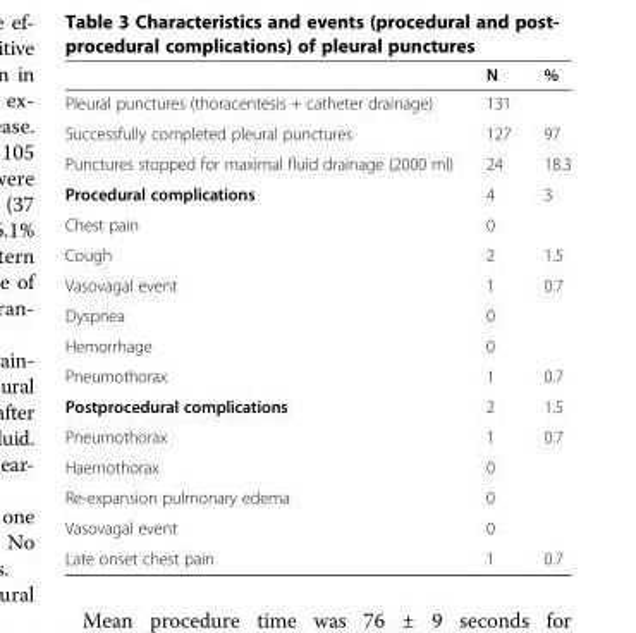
<table><thead><tr><td></td><td>N</td><td>%</td></tr></thead><tbody><tr><td>Pleural punctures (thoracentesis + catheter drainage)</td><td>131</td><td></td></tr><tr><td>Successfully completed pleural punctures</td><td>127</td><td>97</td></tr><tr><td>Punctures stopped for maximal fluid drainage (2000 ml)</td><td>24</td><td>18.3</td></tr><tr><td>Procedural complications</td><td>4</td><td>3</td></tr><tr><td>Chest pain</td><td>0</td><td></td></tr><tr><td>Cough</td><td>2</td><td>1.5</td></tr><tr><td>Vasovagal event</td><td>1</td><td>0.7</td></tr><tr><td>Dyspnea</td><td>0</td><td></td></tr><tr><td>Hemorrhage</td><td>0</td><td></td></tr><tr><td>Pneumothorax</td><td>1</td><td>0.7</td></tr><tr><td>Postprocedural complications</td><td>2</td><td>1.5</td></tr><tr><td>Pneumothorax</td><td>1</td><td>0.7</td></tr><tr><td>Haemothorax</td><td>0</td><td></td></tr><tr><td>Re-expansion pulmonary edema</td><td>0</td><td></td></tr><tr><td>Vasovagal event</td><td>0</td><td></td></tr><tr><td>Late onset chest pain</td><td>1</td><td>0.7</td></tr></tbody></table>